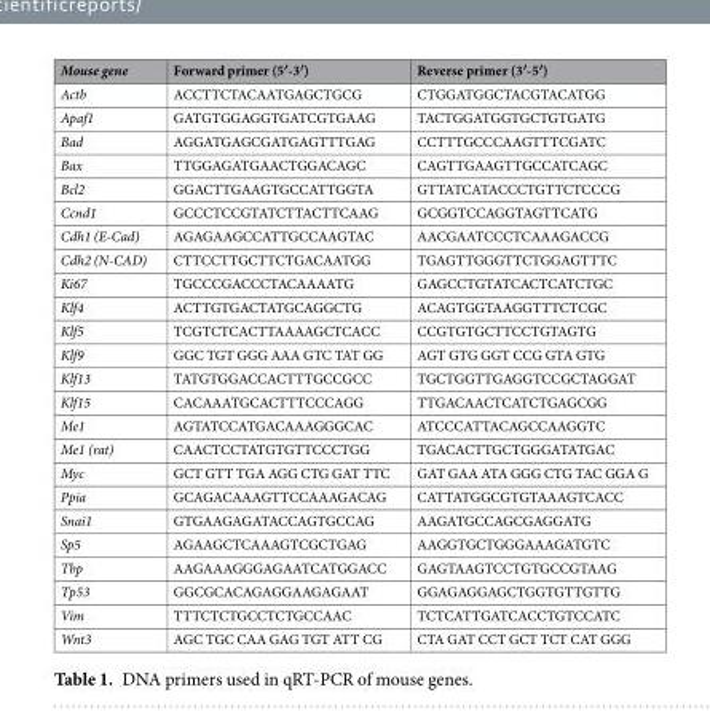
<table><thead><tr><td>Mouse gene</td><td>Forward primer (5′-3′)</td><td>Reverse primer (3′-5′)</td></tr></thead><tbody><tr><td>Actb</td><td>ACCTTCTACAATGAGCTGCG</td><td>CTGGATGGCTACGTACATGG</td></tr><tr><td>Apaf1</td><td>GATGTGGAGGTGATCGTGAAG</td><td>TACTGGATGGTGCTGTGATG</td></tr><tr><td>Bad</td><td>AGGATGAGCGATGAGTTTGAG</td><td>CCTTTGCCCAAGTTTCGATC</td></tr><tr><td>Bax</td><td>TTGGAGATGAACTGGACAGC</td><td>CAGTTGAAGTTGCCATCAGC</td></tr><tr><td>Bcl2</td><td>GGACTTGAAGTGCCATTGGTA</td><td>GTTATCATACCCTGTTCTCCCG</td></tr><tr><td>Ccnd1</td><td>GCCCTCCGTATCTTACTTCAAG</td><td>GCGGTCCAGGTAGTTCATG</td></tr><tr><td>Cdh1 (E-Cad)</td><td>AGAGAAGCCATTGCCAAGTAC</td><td>AACGAATCCCTCAAAGACCG</td></tr><tr><td>Cdh2 (N-CAD)</td><td>CTTCCTTGCTTCTGACAATGG</td><td>TGAGTTGGGTTCTGGAGTTTC</td></tr><tr><td>Ki67</td><td>TGCCCGACCCTACAAAATG</td><td>GAGCCTGTATCACTCATCTGC</td></tr><tr><td>Klf4</td><td>ACTTGTGACTATGCAGGCTG</td><td>ACAGTGGTAAGGTTTCTCGC</td></tr><tr><td>Klf5</td><td>TCGTCTCACTTAAAAGCTCACC</td><td>CCGTGTGCTTCCTGTAGTG</td></tr><tr><td>Klf9</td><td>GGC TGT GGG AAA GTC TAT GG</td><td>AGT GTG GGT CCG GTA GTG</td></tr><tr><td>Klf13</td><td>TATGTGGACCACTTTGCCGCC</td><td>TGCTGGTTGAGGTCCGCTAGGAT</td></tr><tr><td>Klf15</td><td>CACAAATGCACTTTCCCAGG</td><td>TTGACAACTCATCTGAGCGG</td></tr><tr><td>Me1</td><td>AGTATCCATGACAAAGGGCAC</td><td>ATCCCATTACAGCCAAGGTC</td></tr><tr><td>Me1 (rat)</td><td>CAACTCCTATGTGTTCCCTGG</td><td>TGACACTTGCTGGGATATGAC</td></tr><tr><td>Myc</td><td>GCT GTT TGA AGG CTG GAT TTC</td><td>GAT GAA ATA GGG CTG TAC GGA G</td></tr><tr><td>Ppia</td><td>GCAGACAAAGTTCCAAAGACAG</td><td>CATTATGGCGTGTAAAGTCACC</td></tr><tr><td>Snai1</td><td>GTGAAGAGATACCAGTGCCAG</td><td>AAGATGCCAGCGAGGATG</td></tr><tr><td>Sp5</td><td>AGAAGCTCAAAGTCGCTGAG</td><td>AAGGTGCTGGGAAAGATGTC</td></tr><tr><td>Tbp</td><td>AAGAAAGGGAGAATCATGGACC</td><td>GAGTAAGTCCTGTGCCGTAAG</td></tr><tr><td>Tp53</td><td>GGCGCACAGAGGAAGAGAAT</td><td>GGAGAGGAGCTGGTGTTGTTG</td></tr><tr><td>Vim</td><td>TTTCTCTGCCTCTGCCAAC</td><td>TCTCATTGATCACCTGTCCATC</td></tr><tr><td>Wnt3</td><td>AGC TGC CAA GAG TGT ATT CG</td><td>CTA GAT CCT GCT TCT CAT GGG</td></tr></tbody></table>